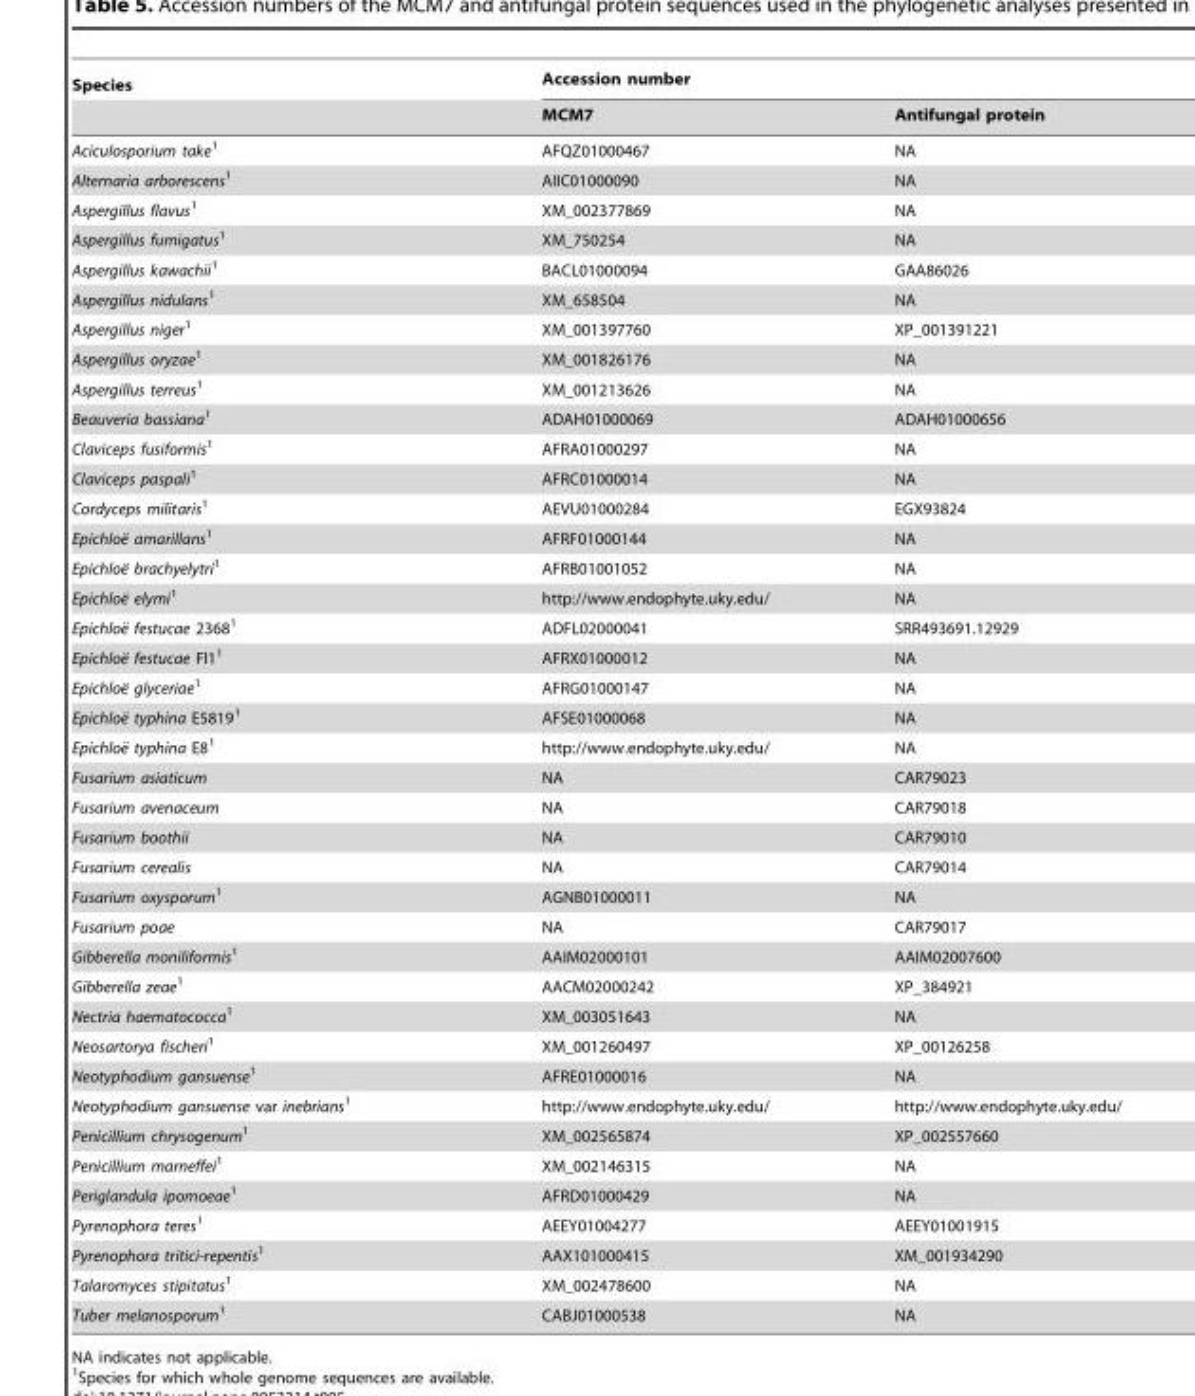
<table><thead><tr><td rowspan="2">Species</td><td colspan="2">Accession number</td></tr><tr><td>MCM7</td><td>Antifungal protein</td></tr></thead><tbody><tr><td>Aciculosporium take1</td><td>AFQZ01000467</td><td>NA</td></tr><tr><td>Alternaria arborescens1</td><td>AIIC01000090</td><td>NA</td></tr><tr><td>Aspergillus flavus1</td><td>XM_002377869</td><td>NA</td></tr><tr><td>Aspergillus fumigatus1</td><td>XM_750254</td><td>NA</td></tr><tr><td>Aspergillus kawachii1</td><td>BACL01000094</td><td>GAA86026</td></tr><tr><td>Aspergillus nidulans1</td><td>XM_658504</td><td>NA</td></tr><tr><td>Aspergillus niger1</td><td>XM_001397760</td><td>XP_001391221</td></tr><tr><td>Aspergillus oryzae1</td><td>XM_001826176</td><td>NA</td></tr><tr><td>Aspergillus terreus1</td><td>XM_001213626</td><td>NA</td></tr><tr><td>Beauveria bassiana1</td><td>ADAH01000069</td><td>ADAH01000656</td></tr><tr><td>Claviceps fusiformis1</td><td>AFRA01000297</td><td>NA</td></tr><tr><td>Claviceps paspali1</td><td>AFRC01000014</td><td>NA</td></tr><tr><td>Cordyceps militaris1</td><td>AEVU01000284</td><td>EGX93824</td></tr><tr><td>Epichloe¨ amarillans1</td><td>AFRF01000144</td><td>NA</td></tr><tr><td>Epichloe¨ brachyelytri1</td><td>AFRB01001052</td><td>NA</td></tr><tr><td>Epichloe¨ elymi1</td><td>http://www.endophyte.uky.edu/</td><td>NA</td></tr><tr><td>Epichloe¨ festucae 23681</td><td>ADFL02000041</td><td>SRR493691.12929</td></tr><tr><td>Epichloe¨ festucae Fl11</td><td>AFRX01000012</td><td>NA</td></tr><tr><td>Epichloe¨ glyceriae1</td><td>AFRG01000147</td><td>NA</td></tr><tr><td>Epichloe¨ typhina E58191</td><td>AFSE01000068</td><td>NA</td></tr><tr><td>Epichloe¨ typhina E81</td><td>http://www.endophyte.uky.edu/</td><td>NA</td></tr><tr><td>Fusarium asiaticum</td><td>NA</td><td>CAR79023</td></tr><tr><td>Fusarium avenaceum</td><td>NA</td><td>CAR79018</td></tr><tr><td>Fusarium boothii</td><td>NA</td><td>CAR79010</td></tr><tr><td>Fusarium cerealis</td><td>NA</td><td>CAR79014</td></tr><tr><td>Fusarium oxysporum1</td><td>AGNB01000011</td><td>NA</td></tr><tr><td>Fusarium poae</td><td>NA</td><td>CAR79017</td></tr><tr><td>Gibberella moniliformis1</td><td>AAIM02000101</td><td>AAIM02007600</td></tr><tr><td>Gibberella zeae1</td><td>AACM02000242</td><td>XP_384921</td></tr><tr><td>Nectria haematococca1</td><td>XM_003051643</td><td>NA</td></tr><tr><td>Neosartorya fischeri1</td><td>XM_001260497</td><td>XP_00126258</td></tr><tr><td>Neotyphodium gansuense1</td><td>AFRE01000016</td><td>NA</td></tr><tr><td>Neotyphodium gansuense var inebrians1</td><td>http://www.endophyte.uky.edu/</td><td>http://www.endophyte.uky.edu/</td></tr><tr><td>Penicillium chrysogenum1</td><td>XM_002565874</td><td>XP_002557660</td></tr><tr><td>Penicillium marneffei1</td><td>XM_002146315</td><td>NA</td></tr><tr><td>Periglandula ipomoeae1</td><td>AFRD01000429</td><td>NA</td></tr><tr><td>Pyrenophora teres1</td><td>AEEY01004277</td><td>AEEY01001915</td></tr><tr><td>Pyrenophora tritici-repentis1</td><td>AAX101000415</td><td>XM_001934290</td></tr><tr><td>Talaromyces stipitatus1</td><td>XM_002478600</td><td>NA</td></tr><tr><td>Tuber melanosporum1</td><td>CABJ01000538</td><td>NA</td></tr></tbody></table>